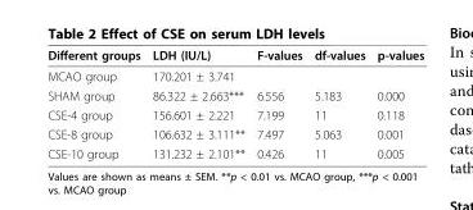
<table><thead><tr><td>Different groups</td><td>LDH (IU/L)</td><td>F-values</td><td>df-values</td><td>p-values</td></tr></thead><tbody><tr><td>MCAO group</td><td>170.201 ± 3.741</td><td></td><td></td><td></td></tr><tr><td>SHAM group</td><td>86.322 ± 2.663***</td><td>6.556</td><td>5.183</td><td>0.000</td></tr><tr><td>CSE-4 group</td><td>156.601 ± 2.221</td><td>7.199</td><td>11</td><td>0.118</td></tr><tr><td>CSE-8 group</td><td>106.632 ± 3.111**</td><td>7.497</td><td>5.063</td><td>0.001</td></tr><tr><td>CSE-10 group</td><td>131.232 ± 2.101**</td><td>0.426</td><td>11</td><td>0.005</td></tr></tbody></table>